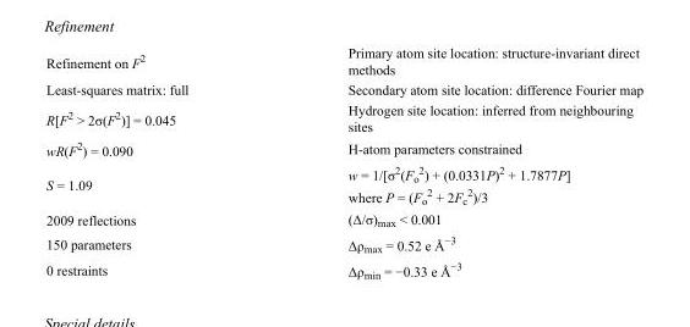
<table><tbody><tr><td>Refinement on F<sup>2</sup></td><td>Primary atom site location: structure-invariant direct methods</td></tr><tr><td>Least-squares matrix: full</td><td>Secondary atom site location: difference Fourier map</td></tr><tr><td>R[F<sup>2</sup> &gt; 2σ(F<sup>2</sup>)] = 0.045</td><td>Hydrogen site location: inferred from neighbouring sites</td></tr><tr><td>wR(F<sup>2</sup>) = 0.090</td><td>H-atom parameters constrained</td></tr><tr><td>S = 1.09</td><td>w = 1/[σ<sup>2</sup>(F<sub>o</sub> <sup>2</sup>) + (0.0331P)<sup>2</sup> + 1.7877P] where P = (F<sub>o</sub> <sup>2</sup> + 2F<sub>c</sub> <sup>2</sup>)/3</td></tr><tr><td>2009 reflections</td><td>(Δ/σ)<sub>max</sub> &lt; 0.001</td></tr><tr><td>150 parameters</td><td>Δρ<sub>max</sub> = 0.52 e Å<sup>−3</sup></td></tr><tr><td>0 restraints</td><td>Δρ<sub>min</sub> = −0.33 e Å<sup>−3</sup></td></tr></tbody></table>